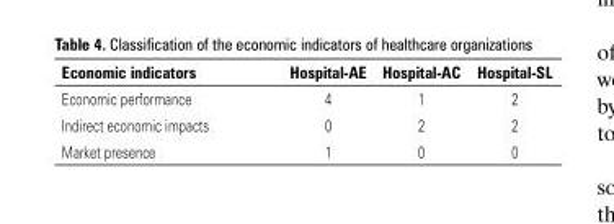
<table><thead><tr><td>Economic indicators</td><td>Hospital-AE</td><td>Hospital-AC</td><td>Hospital-SL</td></tr></thead><tbody><tr><td>Economic performance</td><td>4</td><td>1</td><td>2</td></tr><tr><td>Indirect economic impacts</td><td>0</td><td>2</td><td>2</td></tr><tr><td>Market presence</td><td>1</td><td>0</td><td>0</td></tr></tbody></table>